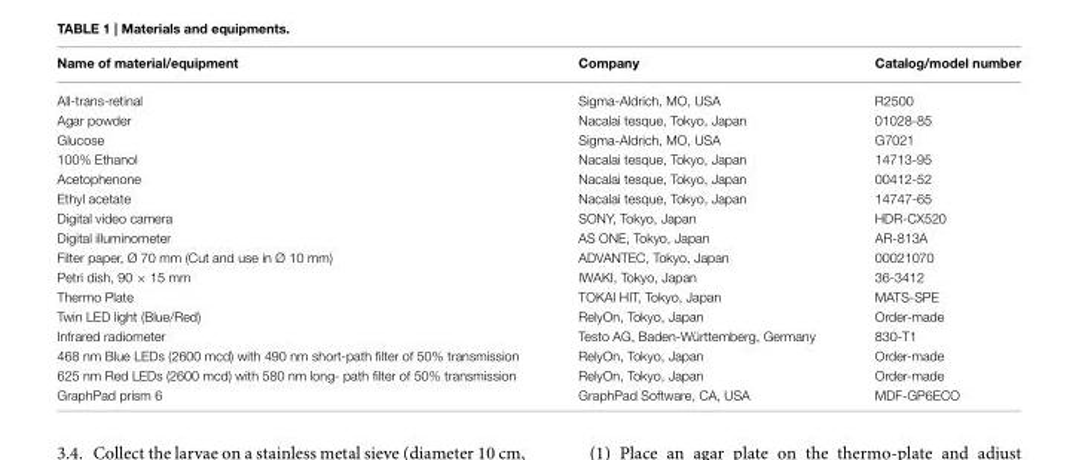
<table><thead><tr><td>Name of material/equipment</td><td>Company</td><td>Catalog/model number</td></tr></thead><tbody><tr><td>All-trans-retinal</td><td>Sigma-Aldrich, MO, USA</td><td>R2500</td></tr><tr><td>Agar powder</td><td>Nacalai tesque, Tokyo, Japan</td><td>01028-85</td></tr><tr><td>Glucose</td><td>Sigma-Aldrich, MO, USA</td><td>G7021</td></tr><tr><td>100% Ethanol</td><td>Nacalai tesque, Tokyo, Japan</td><td>14713-95</td></tr><tr><td>Acetophenone</td><td>Nacalai tesque, Tokyo, Japan</td><td>00412-52</td></tr><tr><td>Ethyl acetate</td><td>Nacalai tesque, Tokyo, Japan</td><td>14747-65</td></tr><tr><td>Digital video camera</td><td>SONY, Tokyo, Japan</td><td>HDR-CX520</td></tr><tr><td>Digital illuminometer</td><td>AS ONE, Tokyo, Japan</td><td>AR-813A</td></tr><tr><td>Filter paper, Ø 70 mm (Cut and use in Ø 10 mm)</td><td>ADVANTEC, Tokyo, Japan</td><td>00021070</td></tr><tr><td>Petri dish, 90 × 15 mm</td><td>IWAKI, Tokyo, Japan</td><td>36-3412</td></tr><tr><td>Thermo Plate</td><td>TOKAI HIT, Tokyo, Japan</td><td>MATS-SPE</td></tr><tr><td>Twin LED light (Blue/Red)</td><td>RelyOn, Tokyo, Japan</td><td>Order-made</td></tr><tr><td>Infrared radiometer</td><td>Testo AG, Baden-Württemberg, Germany</td><td>830-T1</td></tr><tr><td>468 nm Blue LEDs (2600 mcd) with 490 nm short-path filter of 50% transmission</td><td>RelyOn, Tokyo, Japan</td><td>Order-made</td></tr><tr><td>625 nm Red LEDs (2600 mcd) with 580 nm long- path filter of 50% transmission</td><td>RelyOn, Tokyo, Japan</td><td>Order-made</td></tr><tr><td>GraphPad prism 6</td><td>GraphPad Software, CA, USA</td><td>MDF-GP6ECO</td></tr></tbody></table>